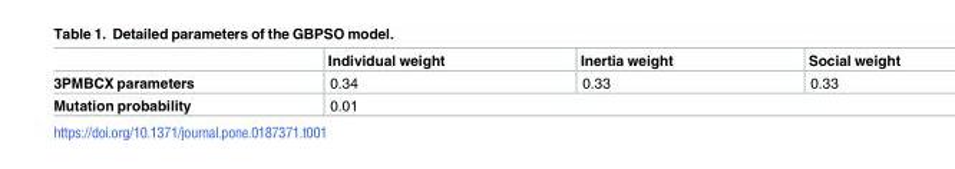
<table><thead><tr><td></td><td>Individual weight</td><td>Inertia weight</td><td>Social weight</td></tr></thead><tbody><tr><td>3PMBCX parameters</td><td>0.34</td><td>0.33</td><td>0.33</td></tr><tr><td>Mutation probability</td><td colspan="3">0.01</td></tr></tbody></table>